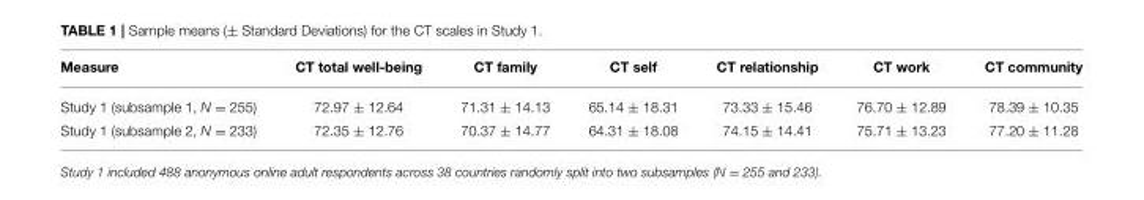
<table><thead><tr><td>Measure</td><td>CT total well-being</td><td>CT family</td><td>CT self</td><td>CT relationship</td><td>CT work</td><td>CT community</td></tr></thead><tbody><tr><td>Study 1 (subsample 1, N = 255)</td><td>72.97 ± 12.64</td><td>71.31 ± 14.13</td><td>65.14 ± 18.31</td><td>73.33 ± 15.46</td><td>76.70 ± 12.89</td><td>78.39 ± 10.35</td></tr><tr><td>Study 1 (subsample 2, N = 233)</td><td>72.35 ± 12.76</td><td>70.37 ± 14.77</td><td>64.31 ± 18.08</td><td>74.15 ± 14.41</td><td>75.71 ± 13.23</td><td>77.20 ± 11.28</td></tr></tbody></table>